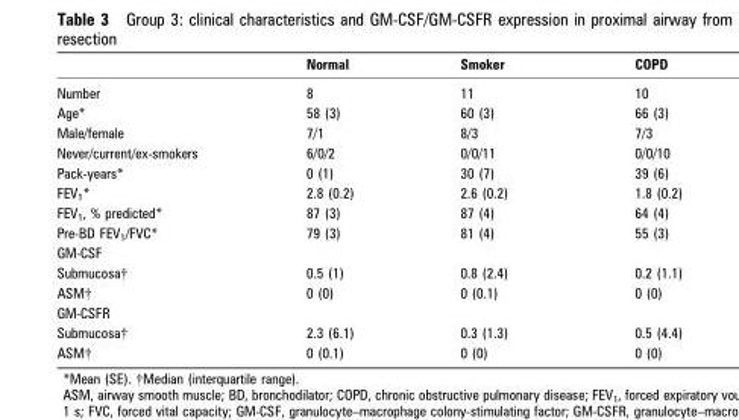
<table><thead><tr><td></td><td>Normal</td><td>Smoker</td><td>COPD</td></tr></thead><tbody><tr><td>Number</td><td>8</td><td>11</td><td>10</td></tr><tr><td>Age*</td><td>58 (3)</td><td>60 (3)</td><td>66 (3)</td></tr><tr><td>Male/female</td><td>7/1</td><td>8/3</td><td>7/3</td></tr><tr><td>Never/current/ex-smokers</td><td>6/0/2</td><td>0/0/11</td><td>0/0/10</td></tr><tr><td>Pack-years*</td><td>0 (1)</td><td>30 (7)</td><td>39 (6)</td></tr><tr><td>FEV<sub>1</sub>*</td><td>2.8 (0.2)</td><td>2.6 (0.2)</td><td>1.8 (0.2)</td></tr><tr><td>FEV<sub>1</sub>, % predicted*</td><td>87 (3)</td><td>87 (4)</td><td>64 (4)</td></tr><tr><td>Pre-BD FEV<sub>1</sub>/FVC*</td><td>79 (3)</td><td>81 (4)</td><td>55 (3)</td></tr><tr><td colspan="4">GM-CSF</td></tr><tr><td>Submucosa†</td><td>0.5 (1)</td><td>0.8 (2.4)</td><td>0.2 (1.1)</td></tr><tr><td>ASM†</td><td>0 (0)</td><td>0 (0.1)</td><td>0 (0)</td></tr><tr><td colspan="4">GM-CSFR</td></tr><tr><td>Submucosa†</td><td>2.3 (6.1)</td><td>0.3 (1.3)</td><td>0.5 (4.4)</td></tr><tr><td>ASM†</td><td>0 (0.1)</td><td>0 (0)</td><td>0 (0)</td></tr></tbody></table>